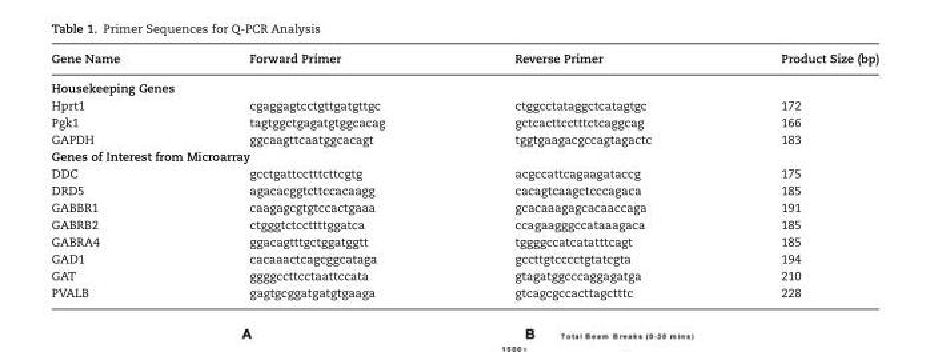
<table><thead><tr><td>Gene Name</td><td>Forward Primer</td><td>Reverse Primer</td><td>Product Size (bp)</td></tr></thead><tbody><tr><td colspan="4">Housekeeping Genes</td></tr><tr><td>Hprt1</td><td>cgaggagtcctgttgatgttgc</td><td>ctggcctataggctcatagtgc</td><td>172</td></tr><tr><td>Pgk1</td><td>tagtggctgagatgtggcacag</td><td>gctcacttcctttctcaggcag</td><td>166</td></tr><tr><td>GAPDH</td><td>ggcaagttcaatggcacagt</td><td>tggtgaagacgccagtagactc</td><td>183</td></tr><tr><td colspan="4">Genes of Interest from Microarray</td></tr><tr><td>DDC</td><td>gcctgattcctttcttcgtg</td><td>acgccattcagaagataccg</td><td>175</td></tr><tr><td>DRD5</td><td>agacacggtcttccacaagg</td><td>cacagtcaagctcccagaca</td><td>185</td></tr><tr><td>GABBR1</td><td>caagagcgtgtccactgaaa</td><td>gcacaaagagcacaaccaga</td><td>191</td></tr><tr><td>GABRB2</td><td>ctgggtctccttttggatca</td><td>ccagaagggccataaagaca</td><td>185</td></tr><tr><td>GABRA4</td><td>ggacagtttgctggatggtt</td><td>tggggccatcatatttcagt</td><td>185</td></tr><tr><td>GAD1</td><td>cacaaactcagcggcataga</td><td>gccttgtcccctgtatcgta</td><td>194</td></tr><tr><td>GAT</td><td>ggggccttcctaattccata</td><td>gtagatggcccaggagatga</td><td>210</td></tr><tr><td>PVALB</td><td>gagtgcggatgatgtgaaga</td><td>gtcagcgccacttagctttc</td><td>228</td></tr></tbody></table>